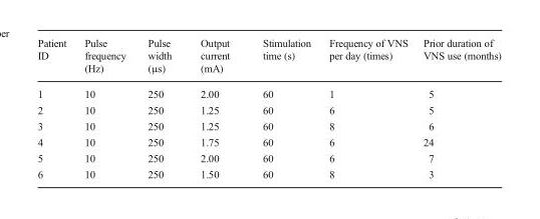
<table><thead><tr><td>Patient ID</td><td>Pulse frequency (Hz)</td><td>Pulse width (μs)</td><td>Output current (mA)</td><td>Stimulation time (s)</td><td>Frequency of VNS per day (times)</td><td>Prior duration of VNS use (months)</td></tr></thead><tbody><tr><td>1</td><td>10</td><td>250</td><td>2.00</td><td>60</td><td>1</td><td>5</td></tr><tr><td>2</td><td>10</td><td>250</td><td>1.25</td><td>60</td><td>6</td><td>5</td></tr><tr><td>3</td><td>10</td><td>250</td><td>1.25</td><td>60</td><td>8</td><td>6</td></tr><tr><td>4</td><td>10</td><td>250</td><td>1.75</td><td>60</td><td>6</td><td>24</td></tr><tr><td>5</td><td>10</td><td>250</td><td>2.00</td><td>60</td><td>6</td><td>7</td></tr><tr><td>6</td><td>10</td><td>250</td><td>1.50</td><td>60</td><td>8</td><td>3</td></tr></tbody></table>